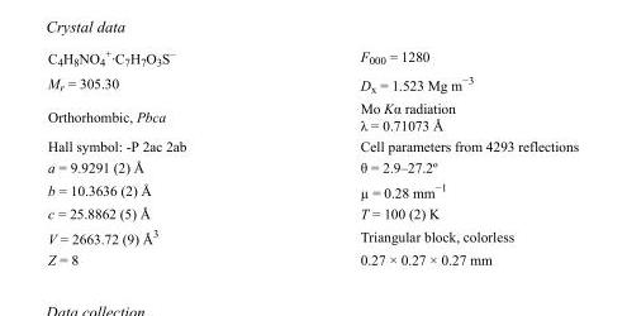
<table><tbody><tr><td>C<sub>4</sub>H<sub>8</sub>NO<sub>4</sub> <sup>+</sup>·C<sub>7</sub>H<sub>7</sub>O<sub>3</sub>S<sup>–</sup></td><td>F<sub>000</sub> = 1280</td></tr><tr><td>M<sub>r</sub> = 305.30</td><td>D<sub>x</sub> = 1.523 Mg m<sup>−3</sup></td></tr><tr><td>Orthorhombic, Pbca</td><td>Mo Kα radiation λ = 0.71073 Å</td></tr><tr><td>Hall symbol: -P 2ac 2ab</td><td>Cell parameters from 4293 reflections</td></tr><tr><td>a = 9.9291 (2) Å</td><td>θ = 2.9–27.2º</td></tr><tr><td>b = 10.3636 (2) Å</td><td>µ = 0.28 mm<sup>−1</sup></td></tr><tr><td>c = 25.8862 (5) Å</td><td>T = 100 (2) K</td></tr><tr><td>V = 2663.72 (9) Å<sup>3</sup></td><td>Triangular block, colorless</td></tr><tr><td>Z = 8</td><td>0.27 × 0.27 × 0.27 mm</td></tr></tbody></table>